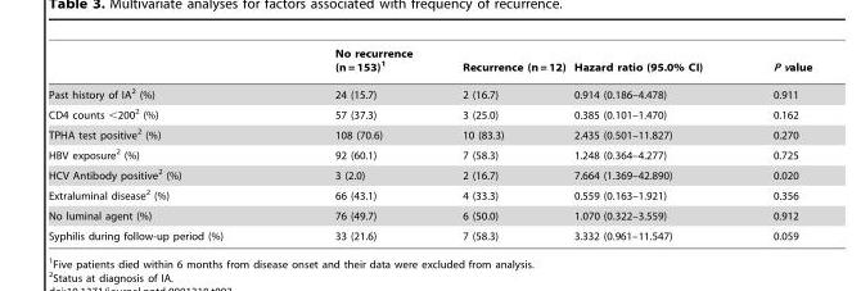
<table><thead><tr><td></td><td>No recurrence (n = 153)<sup>1</sup></td><td>Recurrence (n = 12)</td><td>Hazard ratio (95.0% CI)</td><td>P value</td></tr></thead><tbody><tr><td>Past history of IA<sup>2</sup> (%)</td><td>24 (15.7)</td><td>2 (16.7)</td><td>0.914 (0.186–4.478)</td><td>0.911</td></tr><tr><td>CD4 counts &lt;200<sup>2</sup> (%)</td><td>57 (37.3)</td><td>3 (25.0)</td><td>0.385 (0.101–1.470)</td><td>0.162</td></tr><tr><td>TPHA test positive<sup>2</sup> (%)</td><td>108 (70.6)</td><td>10 (83.3)</td><td>2.435 (0.501–11.827)</td><td>0.270</td></tr><tr><td>HBV exposure<sup>2</sup> (%)</td><td>92 (60.1)</td><td>7 (58.3)</td><td>1.248 (0.364–4.277)</td><td>0.725</td></tr><tr><td>HCV Antibody positive<sup>2</sup> (%)</td><td>3 (2.0)</td><td>2 (16.7)</td><td>7.664 (1.369–42.890)</td><td>0.020</td></tr><tr><td>Extraluminal disease<sup>2</sup> (%)</td><td>66 (43.1)</td><td>4 (33.3)</td><td>0.559 (0.163–1.921)</td><td>0.356</td></tr><tr><td>No luminal agent (%)</td><td>76 (49.7)</td><td>6 (50.0)</td><td>1.070 (0.322–3.559)</td><td>0.912</td></tr><tr><td>Syphilis during follow-up period (%)</td><td>33 (21.6)</td><td>7 (58.3)</td><td>3.332 (0.961–11.547)</td><td>0.059</td></tr></tbody></table>